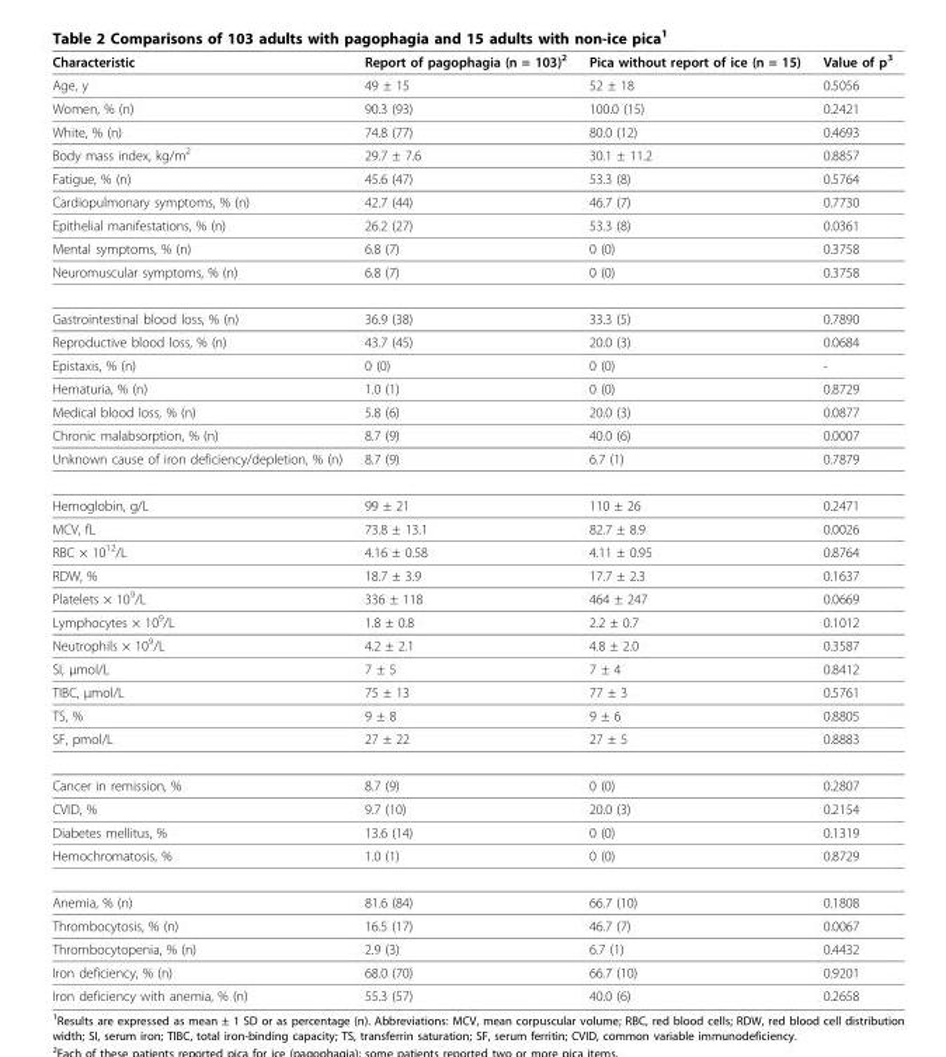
<table><thead><tr><td>Characteristic</td><td>Report of pagophagia (n = 103)2</td><td>Pica without report of ice (n = 15)</td><td>Value of p3</td></tr></thead><tbody><tr><td>Age, y</td><td>49 ± 15</td><td>52 ± 18</td><td>0.5056</td></tr><tr><td>Women, % (n)</td><td>90.3 (93)</td><td>100.0 (15)</td><td>0.2421</td></tr><tr><td>White, % (n)</td><td>74.8 (77)</td><td>80.0 (12)</td><td>0.4693</td></tr><tr><td>Body mass index, kg/m2</td><td>29.7 ± 7.6</td><td>30.1 ± 11.2</td><td>0.8857</td></tr><tr><td>Fatigue, % (n)</td><td>45.6 (47)</td><td>53.3 (8)</td><td>0.5764</td></tr><tr><td>Cardiopulmonary symptoms, % (n)</td><td>42.7 (44)</td><td>46.7 (7)</td><td>0.7730</td></tr><tr><td>Epithelial manifestations, % (n)</td><td>26.2 (27)</td><td>53.3 (8)</td><td>0.0361</td></tr><tr><td>Mental symptoms, % (n)</td><td>6.8 (7)</td><td>0 (0)</td><td>0.3758</td></tr><tr><td>Neuromuscular symptoms, % (n)</td><td>6.8 (7)</td><td>0 (0)</td><td>0.3758</td></tr><tr><td>Gastrointestinal blood loss, % (n)</td><td>36.9 (38)</td><td>33.3 (5)</td><td>0.7890</td></tr><tr><td>Reproductive blood loss, % (n)</td><td>43.7 (45)</td><td>20.0 (3)</td><td>0.0684</td></tr><tr><td>Epistaxis, % (n)</td><td>0 (0)</td><td>0 (0)</td><td>-</td></tr><tr><td>Hematuria, % (n)</td><td>1.0 (1)</td><td>0 (0)</td><td>0.8729</td></tr><tr><td>Medical blood loss, % (n)</td><td>5.8 (6)</td><td>20.0 (3)</td><td>0.0877</td></tr><tr><td>Chronic malabsorption, % (n)</td><td>8.7 (9)</td><td>40.0 (6)</td><td>0.0007</td></tr><tr><td>Unknown cause of iron deficiency/depletion, % (n)</td><td>8.7 (9)</td><td>6.7 (1)</td><td>0.7879</td></tr><tr><td>Hemoglobin, g/L</td><td>99 ± 21</td><td>110 ± 26</td><td>0.2471</td></tr><tr><td>MCV, fL</td><td>73.8 ± 13.1</td><td>82.7 ± 8.9</td><td>0.0026</td></tr><tr><td>RBC × 1012/L</td><td>4.16 ± 0.58</td><td>4.11 ± 0.95</td><td>0.8764</td></tr><tr><td>RDW, %</td><td>18.7 ± 3.9</td><td>17.7 ± 2.3</td><td>0.1637</td></tr><tr><td>Platelets × 109/L</td><td>336 ± 118</td><td>464 ± 247</td><td>0.0669</td></tr><tr><td>Lymphocytes × 109/L</td><td>1.8 ± 0.8</td><td>2.2 ± 0.7</td><td>0.1012</td></tr><tr><td>Neutrophils × 109/L</td><td>4.2 ± 2.1</td><td>4.8 ± 2.0</td><td>0.3587</td></tr><tr><td>SI, μmol/L</td><td>7 ± 5</td><td>7 ± 4</td><td>0.8412</td></tr><tr><td>TIBC, μmol/L</td><td>75 ± 13</td><td>77 ± 3</td><td>0.5761</td></tr><tr><td>TS, %</td><td>9 ± 8</td><td>9 ± 6</td><td>0.8805</td></tr><tr><td>SF, pmol/L</td><td>27 ± 22</td><td>27 ± 5</td><td>0.8883</td></tr><tr><td>Cancer in remission, %</td><td>8.7 (9)</td><td>0 (0)</td><td>0.2807</td></tr><tr><td>CVID, %</td><td>9.7 (10)</td><td>20.0 (3)</td><td>0.2154</td></tr><tr><td>Diabetes mellitus, %</td><td>13.6 (14)</td><td>0 (0)</td><td>0.1319</td></tr><tr><td>Hemochromatosis, %</td><td>1.0 (1)</td><td>0 (0)</td><td>0.8729</td></tr><tr><td>Anemia, % (n)</td><td>81.6 (84)</td><td>66.7 (10)</td><td>0.1808</td></tr><tr><td>Thrombocytosis, % (n)</td><td>16.5 (17)</td><td>46.7 (7)</td><td>0.0067</td></tr><tr><td>Thrombocytopenia, % (n)</td><td>2.9 (3)</td><td>6.7 (1)</td><td>0.4432</td></tr><tr><td>Iron deficiency, % (n)</td><td>68.0 (70)</td><td>66.7 (10)</td><td>0.9201</td></tr><tr><td>Iron deficiency with anemia, % (n)</td><td>55.3 (57)</td><td>40.0 (6)</td><td>0.2658</td></tr></tbody></table>